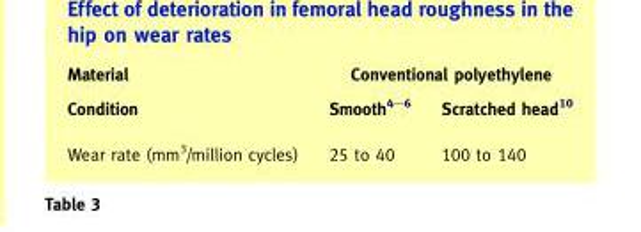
<table><thead><tr><td rowspan="2">Material Condition</td><td colspan="2">Conventional polyethylene</td></tr><tr><td>Smooth<sup>4–6</sup></td><td>Scratched head<sup>10</sup></td></tr></thead><tbody><tr><td>Wear rate (mm<sup>3</sup>/million cycles)</td><td>25 to 40</td><td>100 to 140</td></tr></tbody></table>